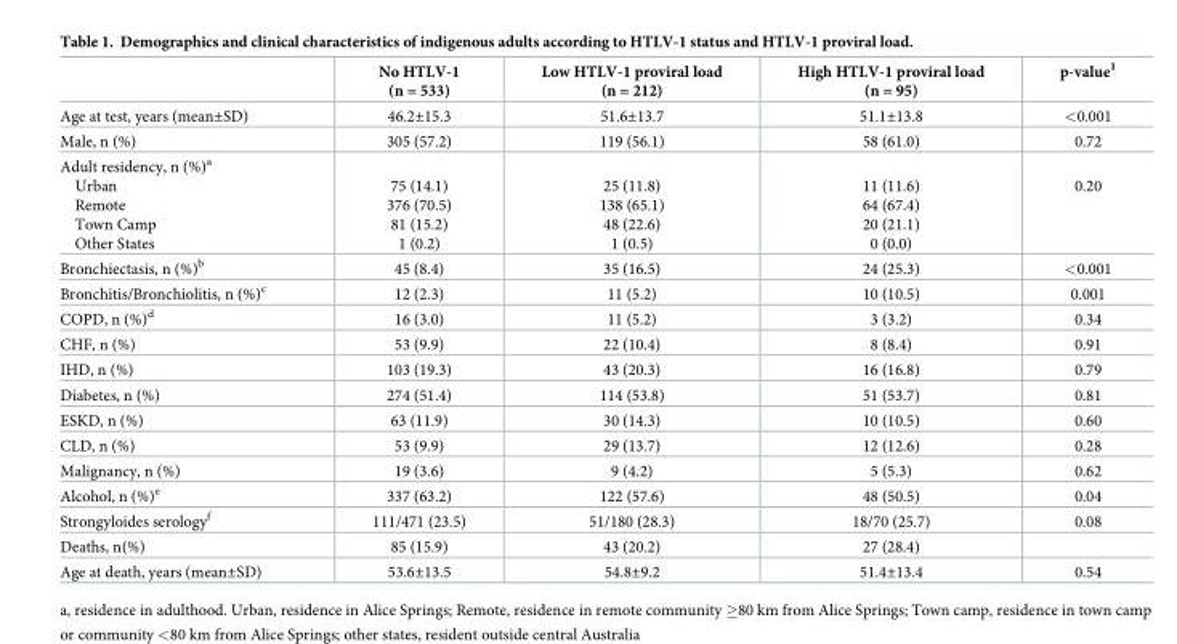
<table><thead><tr><td></td><td>No HTLV-1 (n = 533)</td><td>Low HTLV-1 proviral load (n = 212)</td><td>High HTLV-1 proviral load (n = 95)</td><td>p-value<sup>1</sup></td></tr></thead><tbody><tr><td>Age at test, years (mean±SD)</td><td>46.2±15.3</td><td>51.6±13.7</td><td>51.1±13.8</td><td>&lt;0.001</td></tr><tr><td>Male, n (%)</td><td>305 (57.2)</td><td>119 (56.1)</td><td>58 (61.0)</td><td>0.72</td></tr><tr><td>Adult residency, n (%)<sup>a</sup> Urban Remote Town Camp Other States</td><td>75 (14.1) 376 (70.5) 81 (15.2) 1 (0.2)</td><td>25 (11.8) 138 (65.1) 48 (22.6) 1 (0.5)</td><td>11 (11.6) 64 (67.4) 20 (21.1) 0 (0.0)</td><td>0.20</td></tr><tr><td>Bronchiectasis, n (%)<sup>b</sup></td><td>45 (8.4)</td><td>35 (16.5)</td><td>24 (25.3)</td><td>&lt;0.001</td></tr><tr><td>Bronchitis/Bronchiolitis, n (%)<sup>c</sup></td><td>12 (2.3)</td><td>11 (5.2)</td><td>10 (10.5)</td><td>0.001</td></tr><tr><td>COPD, n (%)<sup>d</sup></td><td>16 (3.0)</td><td>11 (5.2)</td><td>3 (3.2)</td><td>0.34</td></tr><tr><td>CHF, n (%)</td><td>53 (9.9)</td><td>22 (10.4)</td><td>8 (8.4)</td><td>0.91</td></tr><tr><td>IHD, n (%)</td><td>103 (19.3)</td><td>43 (20.3)</td><td>16 (16.8)</td><td>0.79</td></tr><tr><td>Diabetes, n (%)</td><td>274 (51.4)</td><td>114 (53.8)</td><td>51 (53.7)</td><td>0.81</td></tr><tr><td>ESKD, n (%)</td><td>63 (11.9)</td><td>30 (14.3)</td><td>10 (10.5)</td><td>0.60</td></tr><tr><td>CLD, n (%)</td><td>53 (9.9)</td><td>29 (13.7)</td><td>12 (12.6)</td><td>0.28</td></tr><tr><td>Malignancy, n (%)</td><td>19 (3.6)</td><td>9 (4.2)</td><td>5 (5.3)</td><td>0.62</td></tr><tr><td>Alcohol, n (%)<sup>e</sup></td><td>337 (63.2)</td><td>122 (57.6)</td><td>48 (50.5)</td><td>0.04</td></tr><tr><td>Strongyloides serology<sup>f</sup></td><td>111/471 (23.5)</td><td>51/180 (28.3)</td><td>18/70 (25.7)</td><td>0.08</td></tr><tr><td>Deaths, n(%)</td><td>85 (15.9)</td><td>43 (20.2)</td><td>27 (28.4)</td><td></td></tr><tr><td>Age at death, years (mean±SD)</td><td>53.6±13.5</td><td>54.8±9.2</td><td>51.4±13.4</td><td>0.54</td></tr></tbody></table>